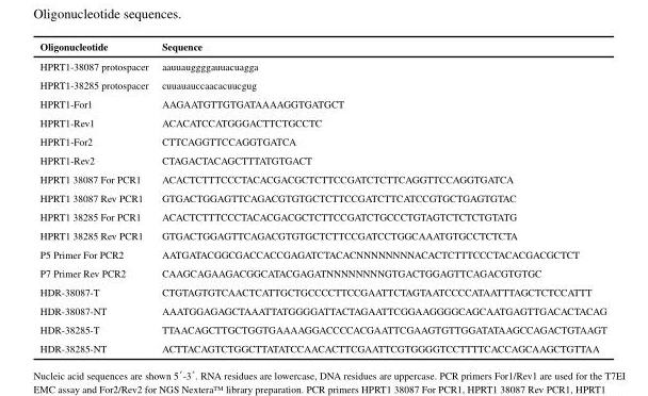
<table><thead><tr><td>Oligonucleotide</td><td>Sequence</td></tr></thead><tbody><tr><td>HPRT1-38087 protospacer</td><td>aauuauggggauuacuagga</td></tr><tr><td>HPRT1-38285 protospacer</td><td>cuuauauccaacacuucgug</td></tr><tr><td>HPRT1-For1</td><td>AAGAATGTTGTGATAAAAGGTGATGCT</td></tr><tr><td>HPRT1-Rev1</td><td>ACACATCCATGGGACTTCTGCCTC</td></tr><tr><td>HPRT1-For2</td><td>CTTCAGGTTCCAGGTGATCA</td></tr><tr><td>HPRT1-Rev2</td><td>CTAGACTACAGCTTTATGTGACT</td></tr><tr><td>HPRT1 38087 For PCR1</td><td>ACACTCTTTCCCTACACGACGCTCTTCCGATCTCTTCAGGTTCCAGGTGATCA</td></tr><tr><td>HPRT1 38087 Rev PCR1</td><td>GTGACTGGAGTTCAGACGTGTGCTCTTCCGATCTTCATCCGTGCTGAGTGTAC</td></tr><tr><td>HPRT1 38285 For PCR1</td><td>ACACTCTTTCCCTACACGACGCTCTTCCGATCTGCCCTGTAGTCTCTCTGTATG</td></tr><tr><td>HPRT1 38285 Rev PCR1</td><td>GTGACTGGAGTTCAGACGTGTGCTCTTCCGATCCTGGCAAATGTGCCTCTCTA</td></tr><tr><td>P5 Primer For PCR2</td><td>AATGATACGGCGACCACCGAGATCTACACNNNNNNNNACACTCTTTCCCTACACGACGCTCT</td></tr><tr><td>P7 Primer Rev PCR2</td><td>CAAGCAGAAGACGGCATACGAGATNNNNNNNNGTGACTGGAGTTCAGACGTGTGC</td></tr><tr><td>HDR-38087-T</td><td>CTGTAGTGTCAACTCATTGCTGCCCCTTCCGAATTCTAGTAATCCCCATAATTTAGCTCTCCATTT</td></tr><tr><td>HDR-38087-NT</td><td>AAATGGAGAGCTAAATTATGGGGATTACTAGAATTCGGAAGGGGCAGCAATGAGTTGACACTACAG</td></tr><tr><td>HDR-38285-T</td><td>TTAACAGCTTGCTGGTGAAAAGGACCCCACGAATTCGAAGTGTTGGATATAAGCCAGACTGTAAGT</td></tr><tr><td>HDR-38285-NT</td><td>ACTTACAGTCTGGCTTATATCCAACACTTCGAATTCGTGGGGTCCTTTTCACCAGCAAGCTGTTAA</td></tr></tbody></table>